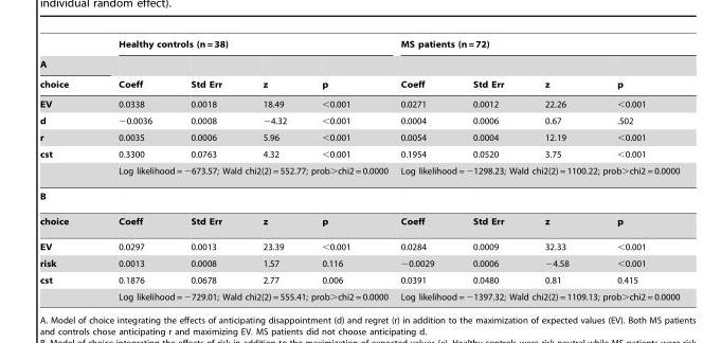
<table><thead><tr><td rowspan="3">A choice</td><td colspan="4">Healthy controls (n = 38)</td><td colspan="4">MS patients (n = 72)</td></tr><tr><td rowspan="2">Coeff</td><td rowspan="2">Std Err</td><td rowspan="2">z</td><td rowspan="2">p</td><td rowspan="2">Coeff</td><td rowspan="2">Std Err</td><td rowspan="2">z</td><td rowspan="2">p</td></tr><tr></tr></thead><tbody><tr><td>EV</td><td>0.0338</td><td>0.0018</td><td>18.49</td><td>&lt;0.001</td><td>0.0271</td><td>0.0012</td><td>22.26</td><td>&lt;0.001</td></tr><tr><td>d</td><td>−0.0036</td><td>0.0008</td><td>−4.32</td><td>&lt;0.001</td><td>0.0004</td><td>0.0006</td><td>0.67</td><td>.502</td></tr><tr><td>r</td><td>0.0035</td><td>0.0006</td><td>5.96</td><td>&lt;0.001</td><td>0.0054</td><td>0.0004</td><td>12.19</td><td>&lt;0.001</td></tr><tr><td rowspan="2">cst</td><td>0.3300</td><td>0.0763</td><td>4.32</td><td>&lt;0.001</td><td>0.1954</td><td>0.0520</td><td>3.75</td><td>&lt;0.001</td></tr><tr><td colspan="4">Log likelihood = −673.57; Wald chi2(2) = 552.77; prob&gt;chi2 = 0.0000</td><td colspan="4">Log likelihood = −1298.23; Wald chi2(2) = 1100.22; prob&gt;chi2 = 0.0000</td></tr><tr><td colspan="9">B</td></tr><tr><td>choice</td><td>Coeff</td><td>Std Err</td><td>z</td><td>p</td><td>Coeff</td><td>Std Err</td><td>z</td><td>p</td></tr><tr><td>EV</td><td>0.0297</td><td>0.0013</td><td>23.39</td><td>&lt;0.001</td><td>0.0284</td><td>0.0009</td><td>32.33</td><td>&lt;0.001</td></tr><tr><td>risk</td><td>0.0013</td><td>0.0008</td><td>1.57</td><td>0.116</td><td>−0.0029</td><td>0.0006</td><td>−4.58</td><td>&lt;0.001</td></tr><tr><td rowspan="2">cst</td><td>0.1876</td><td>0.0678</td><td>2.77</td><td>0.006</td><td>0.0391</td><td>0.0480</td><td>0.81</td><td>0.415</td></tr><tr><td colspan="4">Log likelihood = −729.01; Wald chi2(2) = 555.41; prob&gt;chi2 = 0.0000</td><td colspan="4">Log likelihood = −1397.32; Wald chi2(2) = 1109.13; prob&gt;chi2 = 0.0000</td></tr></tbody></table>